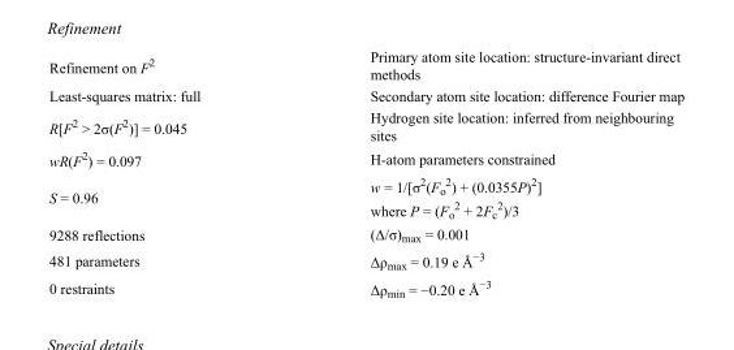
<table><tbody><tr><td>Refinement on F<sup>2</sup></td><td>Primary atom site location: structure-invariant direct methods</td></tr><tr><td>Least-squares matrix: full</td><td>Secondary atom site location: difference Fourier map</td></tr><tr><td>R[F<sup>2</sup> &gt; 2σ(F<sup>2</sup>)] = 0.045</td><td>Hydrogen site location: inferred from neighbouring sites</td></tr><tr><td>wR(F<sup>2</sup>) = 0.097</td><td>H-atom parameters constrained</td></tr><tr><td>S = 0.96</td><td>w = 1/[σ<sup>2</sup>(F<sub>o</sub> <sup>2</sup>) + (0.0355P)<sup>2</sup>] where P = (F<sub>o</sub> <sup>2</sup> + 2F<sub>c</sub> <sup>2</sup>)/3</td></tr><tr><td>9288 reflections</td><td>(Δ/σ)<sub>max</sub> = 0.001</td></tr><tr><td>481 parameters</td><td>Δρ<sub>max</sub> = 0.19 e Å<sup>−3</sup></td></tr><tr><td>0 restraints</td><td>Δρ<sub>min</sub> = −0.20 e Å<sup>−3</sup></td></tr></tbody></table>